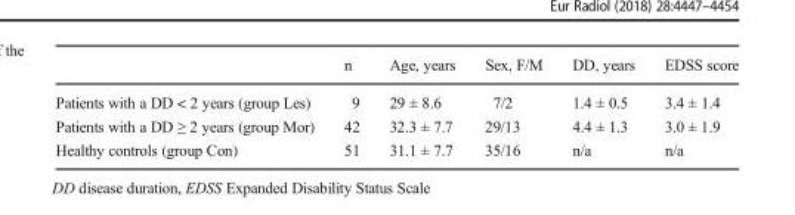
<table><thead><tr><td></td><td>n</td><td>Age, years</td><td>Sex, F/M</td><td>DD, years</td><td>EDSS score</td></tr></thead><tbody><tr><td>Patients with a DD &lt; 2 years (group Les)</td><td>9</td><td>29 ± 8.6</td><td>7/2</td><td>1.4 ± 0.5</td><td>3.4 ± 1.4</td></tr><tr><td>Patients with a DD ≥ 2 years (group Mor)</td><td>42</td><td>32.3 ± 7.7</td><td>29/13</td><td>4.4 ± 1.3</td><td>3.0 ± 1.9</td></tr><tr><td>Healthy controls (group Con)</td><td>51</td><td>31.1 ± 7.7</td><td>35/16</td><td>n/a</td><td>n/a</td></tr></tbody></table>